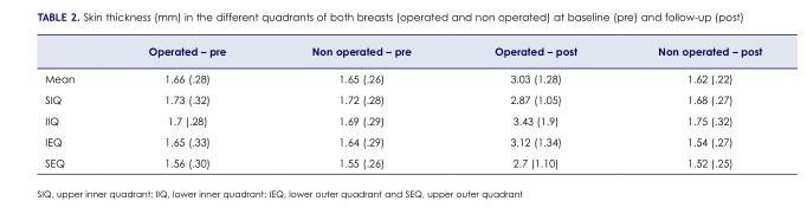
<table><thead><tr><td></td><td>Operated – pre</td><td>Non operated – pre</td><td>Operated – post</td><td>Non operated – post</td></tr></thead><tbody><tr><td>Mean</td><td>1.66 (.28)</td><td>1.65 (.26)</td><td>3.03 (1.28)</td><td>1.62 (.22)</td></tr><tr><td>SIQ</td><td>1.73 (.32)</td><td>1.72 (.28)</td><td>2.87 (1.05)</td><td>1.68 (.27)</td></tr><tr><td>IIQ</td><td>1.7 (.28)</td><td>1.69 (.29)</td><td>3.43 (1.9)</td><td>1.75 (.32)</td></tr><tr><td>IEQ</td><td>1.65 (.33)</td><td>1.64 (.29)</td><td>3.12 (1.34)</td><td>1.54 (.27)</td></tr><tr><td>SEQ</td><td>1.56 (.30)</td><td>1.55 (.26)</td><td>2.7 (1.10)</td><td>1.52 (.25)</td></tr></tbody></table>